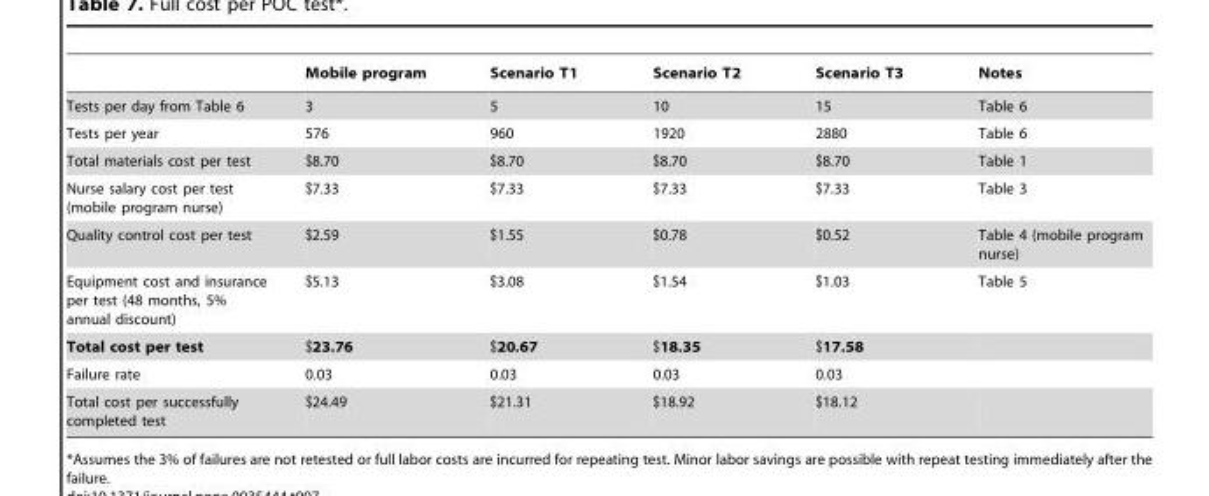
<table><thead><tr><td></td><td>Mobile program</td><td>Scenario T1</td><td>Scenario T2</td><td>Scenario T3</td><td>Notes</td></tr></thead><tbody><tr><td>Tests per day from Table 6</td><td>3</td><td>5</td><td>10</td><td>15</td><td>Table 6</td></tr><tr><td>Tests per year</td><td>576</td><td>960</td><td>1920</td><td>2880</td><td>Table 6</td></tr><tr><td>Total materials cost per test</td><td>$8.70</td><td>$8.70</td><td>$8.70</td><td>$8.70</td><td>Table 1</td></tr><tr><td>Nurse salary cost per test (mobile program nurse)</td><td>$7.33</td><td>$7.33</td><td>$7.33</td><td>$7.33</td><td>Table 3</td></tr><tr><td>Quality control cost per test</td><td>$2.59</td><td>$1.55</td><td>$0.78</td><td>$0.52</td><td>Table 4 (mobile program nurse)</td></tr><tr><td>Equipment cost and insurance per test (48 months, 5% annual discount)</td><td>$5.13</td><td>$3.08</td><td>$1.54</td><td>$1.03</td><td>Table 5</td></tr><tr><td>Total cost per test</td><td>$23.76</td><td>$20.67</td><td>$18.35</td><td>$17.58</td><td></td></tr><tr><td>Failure rate</td><td>0.03</td><td>0.03</td><td>0.03</td><td>0.03</td><td></td></tr><tr><td>Total cost per successfully completed test</td><td>$24.49</td><td>$21.31</td><td>$18.92</td><td>$18.12</td><td></td></tr></tbody></table>